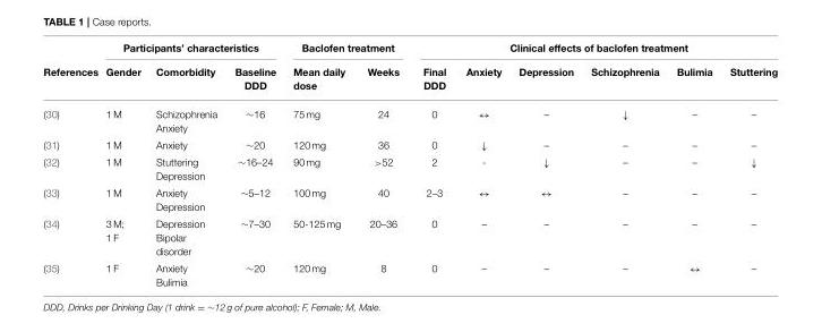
<table><thead><tr><td rowspan="2">References</td><td colspan="3">Participants’ characteristics</td><td colspan="2">Baclofen treatment</td><td colspan="6">Clinical effects of baclofen treatment</td></tr><tr><td>Gender</td><td>Comorbidity</td><td>Baseline DDD</td><td>Mean daily dose</td><td>Weeks</td><td>Final DDD</td><td>Anxiety</td><td>Depression</td><td>Schizophrenia</td><td>Bulimia</td><td>Stuttering</td></tr></thead><tbody><tr><td>(30)</td><td>1 M</td><td>Schizophrenia Anxiety</td><td>∼16</td><td>75 mg</td><td>24</td><td>0</td><td>↔</td><td>–</td><td>↓</td><td>–</td><td>–</td></tr><tr><td>(31)</td><td>1 M</td><td>Anxiety</td><td>∼20</td><td>120 mg</td><td>36</td><td>0</td><td>↓</td><td>–</td><td>–</td><td>–</td><td>–</td></tr><tr><td>(32)</td><td>1 M</td><td>Stuttering Depression</td><td>∼16–24</td><td>90 mg</td><td>&gt;52</td><td>2</td><td>-</td><td>↓</td><td>–</td><td>–</td><td>↓</td></tr><tr><td>(33)</td><td>1 M</td><td>Anxiety Depression</td><td>∼5–12</td><td>100 mg</td><td>40</td><td>2–3</td><td>↔</td><td>↔</td><td>–</td><td>–</td><td>–</td></tr><tr><td>(34)</td><td>3 M; 1 F</td><td>Depression Bipolar disorder</td><td>∼7–30</td><td>50-125 mg</td><td>20–36</td><td>0</td><td>–</td><td>–</td><td>–</td><td>–</td><td>–</td></tr><tr><td>(35)</td><td>1 F</td><td>Anxiety Bulimia</td><td>∼20</td><td>120 mg</td><td>8</td><td>0</td><td>–</td><td>–</td><td>–</td><td>↔</td><td>–</td></tr></tbody></table>